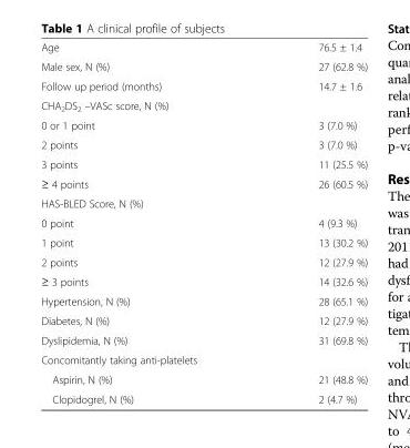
<table><tbody><tr><td>Age</td><td>76.5 ± 1.4</td></tr><tr><td>Male sex, N (%)</td><td>27 (62.8 %)</td></tr><tr><td>Follow up period (months)</td><td>14.7 ± 1.6</td></tr><tr><td colspan="2">CHA<sub>2</sub>DS<sub>2</sub> –VASc score, N (%)</td></tr><tr><td>0 or 1 point</td><td>3 (7.0 %)</td></tr><tr><td>2 points</td><td>3 (7.0 %)</td></tr><tr><td>3 points</td><td>11 (25.5 %)</td></tr><tr><td>≥ 4 points</td><td>26 (60.5 %)</td></tr><tr><td colspan="2">HAS-BLED Score, N (%)</td></tr><tr><td>0 point</td><td>4 (9.3 %)</td></tr><tr><td>1 point</td><td>13 (30.2 %)</td></tr><tr><td>2 points</td><td>12 (27.9 %)</td></tr><tr><td>≥ 3 points</td><td>14 (32.6 %)</td></tr><tr><td>Hypertension, N (%)</td><td>28 (65.1 %)</td></tr><tr><td>Diabetes, N (%)</td><td>12 (27.9 %)</td></tr><tr><td>Dyslipidemia, N (%)</td><td>31 (69.8 %)</td></tr><tr><td colspan="2">Concomitantly taking anti-platelets</td></tr><tr><td>Aspirin, N (%)</td><td>21 (48.8 %)</td></tr><tr><td>Clopidogrel, N (%)</td><td>2 (4.7 %)</td></tr></tbody></table>